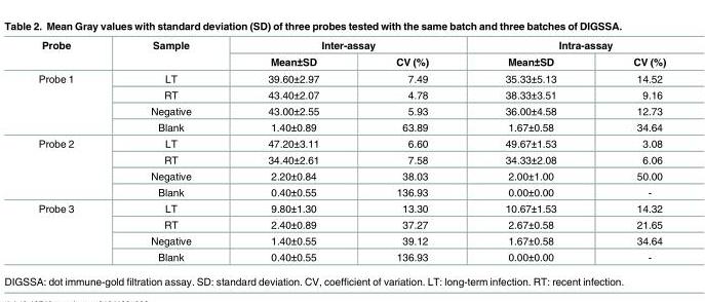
<table><thead><tr><td rowspan="2">Probe</td><td rowspan="2">Sample</td><td colspan="2">Inter-assay</td><td colspan="2">Intra-assay</td></tr><tr><td>Mean±SD</td><td>CV (%)</td><td>Mean±SD</td><td>CV (%)</td></tr></thead><tbody><tr><td rowspan="4">Probe 1</td><td>LT</td><td>39.60±2.97</td><td>7.49</td><td>35.33±5.13</td><td>14.52</td></tr><tr><td>RT</td><td>43.40±2.07</td><td>4.78</td><td>38.33±3.51</td><td>9.16</td></tr><tr><td>Negative</td><td>43.00±2.55</td><td>5.93</td><td>36.00±4.58</td><td>12.73</td></tr><tr><td>Blank</td><td>1.40±0.89</td><td>63.89</td><td>1.67±0.58</td><td>34.64</td></tr><tr><td rowspan="4">Probe 2</td><td>LT</td><td>47.20±3.11</td><td>6.60</td><td>49.67±1.53</td><td>3.08</td></tr><tr><td>RT</td><td>34.40±2.61</td><td>7.58</td><td>34.33±2.08</td><td>6.06</td></tr><tr><td>Negative</td><td>2.20±0.84</td><td>38.03</td><td>2.00±1.00</td><td>50.00</td></tr><tr><td>Blank</td><td>0.40±0.55</td><td>136.93</td><td>0.00±0.00</td><td>-</td></tr><tr><td rowspan="4">Probe 3</td><td>LT</td><td>9.80±1.30</td><td>13.30</td><td>10.67±1.53</td><td>14.32</td></tr><tr><td>RT</td><td>2.40±0.89</td><td>37.27</td><td>2.67±0.58</td><td>21.65</td></tr><tr><td>Negative</td><td>1.40±0.55</td><td>39.12</td><td>1.67±0.58</td><td>34.64</td></tr><tr><td>Blank</td><td>0.40±0.55</td><td>136.93</td><td>0.00±0.00</td><td>-</td></tr></tbody></table>